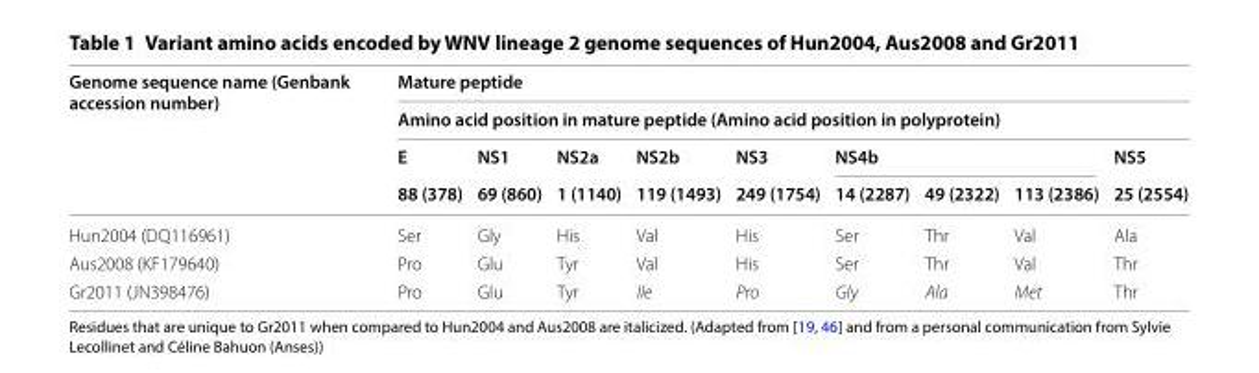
<table><thead><tr><td rowspan="4">Genome sequence name (Genbank accession number)</td><td rowspan="2" colspan="9">Mature peptide Amino acid position in mature peptide (Amino acid position in polyprotein)</td></tr><tr></tr><tr><td rowspan="2">E 88 (378)</td><td rowspan="2">NS1 69 (860)</td><td rowspan="2">NS2a 1 (1140)</td><td rowspan="2">NS2b 119 (1493)</td><td rowspan="2">NS3 249 (1754)</td><td colspan="3">NS4b</td><td rowspan="2">NS5 25 (2554)</td></tr><tr><td>14 (2287)</td><td>49 (2322)</td><td>113 (2386)</td></tr></thead><tbody><tr><td>Hun2004 (DQ116961)</td><td>Ser</td><td>Gly</td><td>His</td><td>Val</td><td>His</td><td>Ser</td><td>Thr</td><td>Val</td><td>Ala</td></tr><tr><td>Aus2008 (KF179640)</td><td>Pro</td><td>Glu</td><td>Tyr</td><td>Val</td><td>His</td><td>Ser</td><td>Thr</td><td>Val</td><td>Thr</td></tr><tr><td>Gr2011 (JN398476)</td><td>Pro</td><td>Glu</td><td>Tyr</td><td>Ile</td><td>Pro</td><td>Gly</td><td>Ala</td><td>Met</td><td>Thr</td></tr></tbody></table>